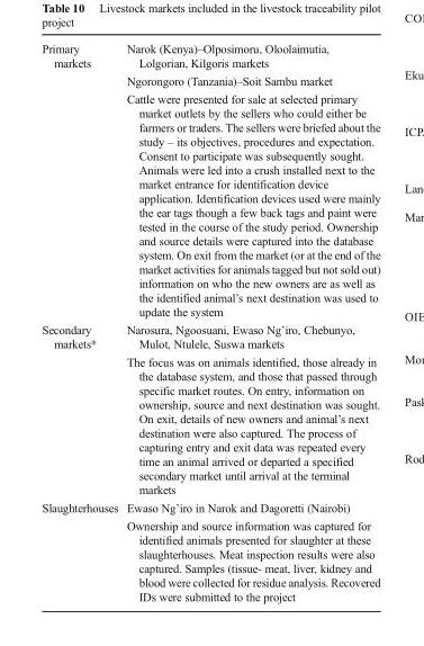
<table><tbody><tr><td rowspan="3">Primary markets</td><td>Narok (Kenya)–Olposimoru, Oloolaimutia, Lolgorian, Kilgoris markets</td></tr><tr><td>Ngorongoro (Tanzania)–Soit Sambu market</td></tr><tr><td>Cattle were presented for sale at selected primary market outlets by the sellers who could either be farmers or traders. The sellers were briefed about the study – its objectives, procedures and expectation. Consent to participate was subsequently sought. Animals were led into a crush installed next to the market entrance for identification device application. Identification devices used were mainly the ear tags though a few back tags and paint were tested in the course of the study period. Ownership and source details were captured into the database system. On exit from the market (or at the end of the market activities for animals tagged but not sold out) information on who the new owners are as well as the identified animal’s next destination was used to update the system</td></tr><tr><td rowspan="2">Secondary markets*</td><td>Narosura, Ngoosuani, Ewaso Ng’iro, Chebunyo, Mulot, Ntulele, Suswa markets</td></tr><tr><td>The focus was on animals identified, those already in the database system, and those that passed through specific market routes. On entry, information on ownership, source and next destination was sought. On exit, details of new owners and animal’s next destination were also captured. The process of capturing entry and exit data was repeated every time an animal arrived or departed a specified secondary market until arrival at the terminal markets</td></tr><tr><td rowspan="2">Slaughterhouses</td><td>Ewaso Ng’iro in Narok and Dagoretti (Nairobi)</td></tr><tr><td>Ownership and source information was captured for identified animals presented for slaughter at these slaughterhouses. Meat inspection results were also captured. Samples (tissue- meat, liver, kidney and blood were collected for residue analysis. Recovered IDs were submitted to the project</td></tr></tbody></table>